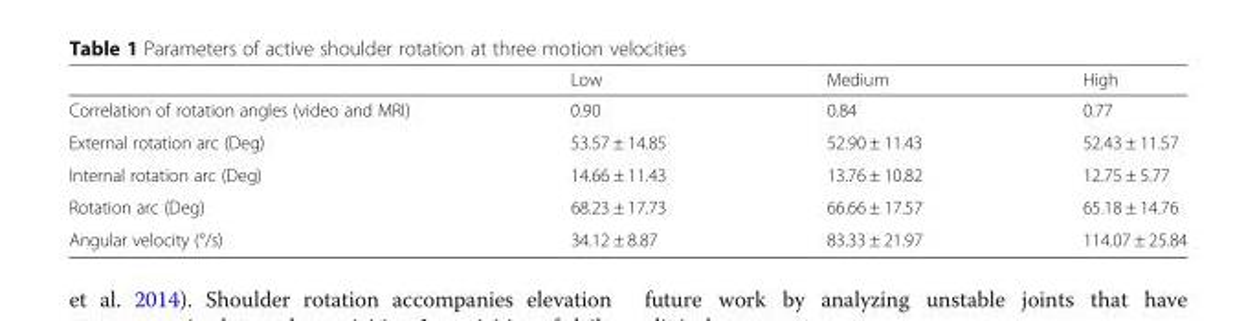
<table><thead><tr><td></td><td>Low</td><td>Medium</td><td>High</td></tr></thead><tbody><tr><td>Correlation of rotation angles (video and MRI)</td><td>0.90</td><td>0.84</td><td>0.77</td></tr><tr><td>External rotation arc (Deg)</td><td>53.57 ± 14.85</td><td>52.90 ± 11.43</td><td>52.43 ± 11.57</td></tr><tr><td>Internal rotation arc (Deg)</td><td>14.66 ± 11.43</td><td>13.76 ± 10.82</td><td>12.75 ± 5.77</td></tr><tr><td>Rotation arc (Deg)</td><td>68.23 ± 17.73</td><td>66.66 ± 17.57</td><td>65.18 ± 14.76</td></tr><tr><td>Angular velocity (°/s)</td><td>34.12 ± 8.87</td><td>83.33 ± 21.97</td><td>114.07 ± 25.84</td></tr></tbody></table>